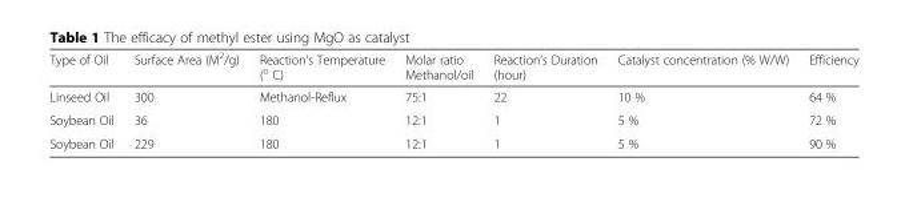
<table><thead><tr><td>Type of Oil</td><td>Surface Area (M<sup>2</sup>/g)</td><td>Reaction’s Temperature (<sup>o</sup> C)</td><td>Molar ratio Methanol/oil</td><td>Reaction’s Duration (hour)</td><td>Catalyst concentration (% W/W)</td><td>Efficiency</td></tr></thead><tbody><tr><td>Linseed Oil</td><td>300</td><td>Methanol-Reflux</td><td>75:1</td><td>22</td><td>10 %</td><td>64 %</td></tr><tr><td>Soybean Oil</td><td>36</td><td>180</td><td>12:1</td><td>1</td><td>5 %</td><td>72 %</td></tr><tr><td>Soybean Oil</td><td>229</td><td>180</td><td>12:1</td><td>1</td><td>5 %</td><td>90 %</td></tr></tbody></table>